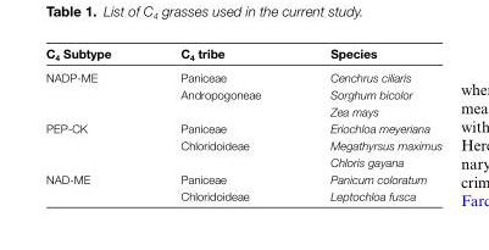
<table><thead><tr><td>C<sub>4</sub> Subtype</td><td>C<sub>4</sub> tribe</td><td>Species</td></tr></thead><tbody><tr><td>NADP-ME</td><td>Paniceae Andropogoneae</td><td>Cenchrus ciliaris Sorghum bicolor Zea mays</td></tr><tr><td>PEP-CK</td><td>Paniceae Chloridoideae</td><td>Eriochloa meyeriana Megathyrsus maximus Chloris gayana</td></tr><tr><td>NAD-ME</td><td>Paniceae Chloridoideae</td><td>Panicum coloratum Leptochloa fusca</td></tr></tbody></table>